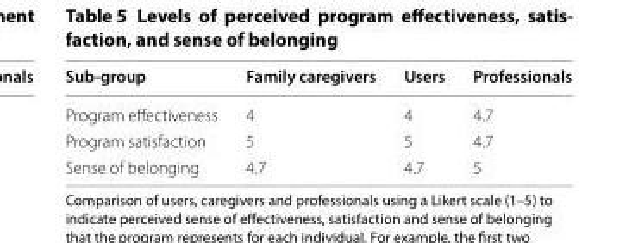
<table><thead><tr><td>Sub-group</td><td>Family caregivers</td><td>Users</td><td>Professionals</td></tr></thead><tbody><tr><td>Program effectiveness</td><td>4</td><td>4</td><td>4.7</td></tr><tr><td>Program satisfaction</td><td>5</td><td>5</td><td>4.7</td></tr><tr><td>Sense of belonging</td><td>4.7</td><td>4.7</td><td>5</td></tr></tbody></table>